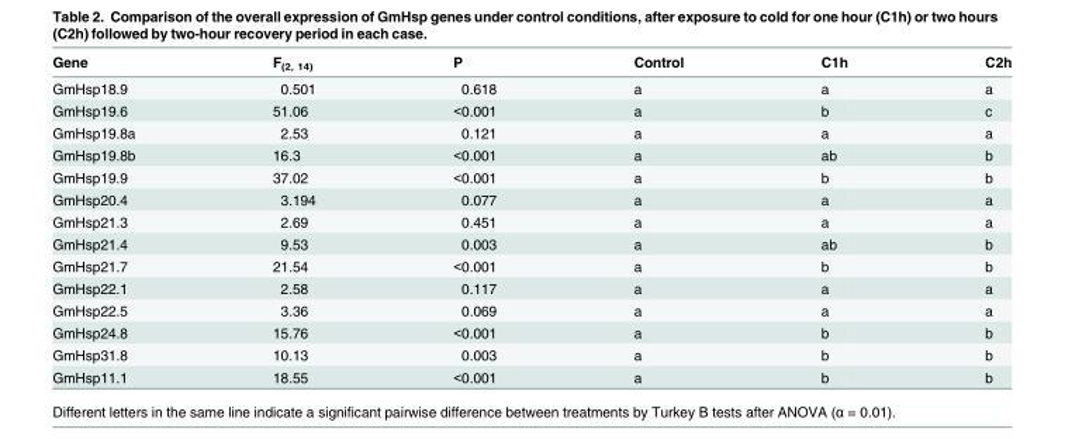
<table><thead><tr><td>Gene</td><td>F<sub>(2, 14)</sub></td><td>P</td><td>Control</td><td>C1h</td><td>C2h</td></tr></thead><tbody><tr><td>GmHsp18.9</td><td>0.501</td><td>0.618</td><td>a</td><td>a</td><td>a</td></tr><tr><td>GmHsp19.6</td><td>51.06</td><td>&lt;0.001</td><td>a</td><td>b</td><td>c</td></tr><tr><td>GmHsp19.8a</td><td>2.53</td><td>0.121</td><td>a</td><td>a</td><td>a</td></tr><tr><td>GmHsp19.8b</td><td>16.3</td><td>&lt;0.001</td><td>a</td><td>ab</td><td>b</td></tr><tr><td>GmHsp19.9</td><td>37.02</td><td>&lt;0.001</td><td>a</td><td>b</td><td>b</td></tr><tr><td>GmHsp20.4</td><td>3.194</td><td>0.077</td><td>a</td><td>a</td><td>a</td></tr><tr><td>GmHsp21.3</td><td>2.69</td><td>0.451</td><td>a</td><td>a</td><td>a</td></tr><tr><td>GmHsp21.4</td><td>9.53</td><td>0.003</td><td>a</td><td>ab</td><td>b</td></tr><tr><td>GmHsp21.7</td><td>21.54</td><td>&lt;0.001</td><td>a</td><td>b</td><td>b</td></tr><tr><td>GmHsp22.1</td><td>2.58</td><td>0.117</td><td>a</td><td>a</td><td>a</td></tr><tr><td>GmHsp22.5</td><td>3.36</td><td>0.069</td><td>a</td><td>a</td><td>a</td></tr><tr><td>GmHsp24.8</td><td>15.76</td><td>&lt;0.001</td><td>a</td><td>b</td><td>b</td></tr><tr><td>GmHsp31.8</td><td>10.13</td><td>0.003</td><td>a</td><td>b</td><td>b</td></tr><tr><td>GmHsp11.1</td><td>18.55</td><td>&lt;0.001</td><td>a</td><td>b</td><td>b</td></tr></tbody></table>